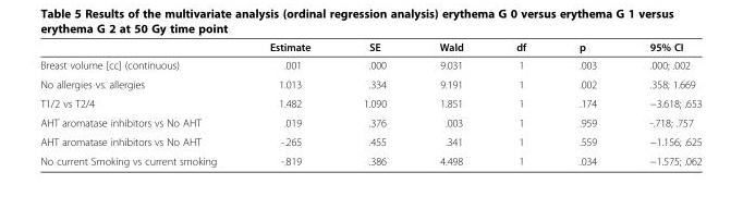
<table><thead><tr><td></td><td>Estimate</td><td>SE</td><td>Wald</td><td>df</td><td>p</td><td>95% CI</td></tr></thead><tbody><tr><td>Breast volume [cc] (continuous)</td><td>.001</td><td>.000</td><td>9.031</td><td>1</td><td>.003</td><td>.000; .002</td></tr><tr><td>No allergies vs. allergies</td><td>1.013</td><td>.334</td><td>9.191</td><td>1</td><td>.002</td><td>.358; 1.669</td></tr><tr><td>T1/2 vs T2/4</td><td>1.482</td><td>1.090</td><td>1.851</td><td>1</td><td>.174</td><td>−3.618; .653</td></tr><tr><td>AHT aromatase inhibitors vs No AHT</td><td>.019</td><td>.376</td><td>.003</td><td>1</td><td>.959</td><td>-.718; .757</td></tr><tr><td>AHT aromatase inhibitors vs No AHT</td><td>-.265</td><td>.455</td><td>.341</td><td>1</td><td>.559</td><td>−1.156; .625</td></tr><tr><td>No current Smoking vs current smoking</td><td>-.819</td><td>.386</td><td>4.498</td><td>1</td><td>.034</td><td>−1.575; .062</td></tr></tbody></table>